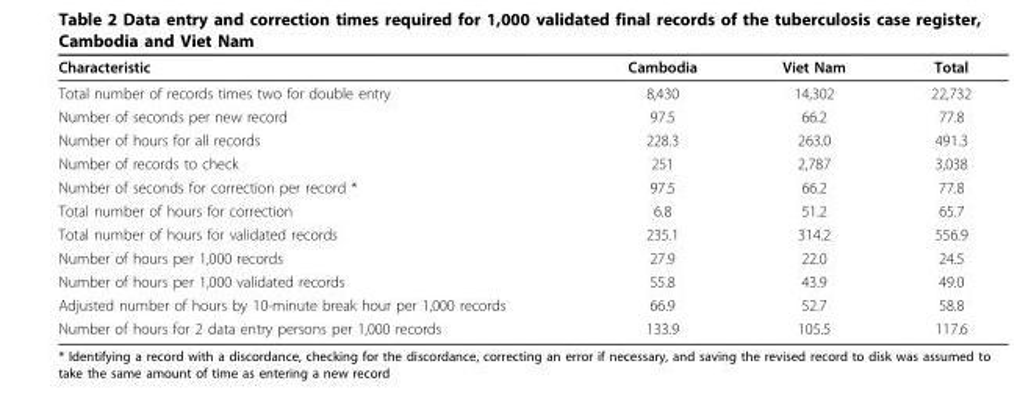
<table><thead><tr><td>Characteristic</td><td>Cambodia</td><td>Viet Nam</td><td>Total</td></tr></thead><tbody><tr><td>Total number of records times two for double entry</td><td>8,430</td><td>14,302</td><td>22,732</td></tr><tr><td>Number of seconds per new record</td><td>97.5</td><td>66.2</td><td>77.8</td></tr><tr><td>Number of hours for all records</td><td>228.3</td><td>263.0</td><td>491.3</td></tr><tr><td>Number of records to check</td><td>251</td><td>2,787</td><td>3,038</td></tr><tr><td>Number of seconds for correction per record *</td><td>97.5</td><td>66.2</td><td>77.8</td></tr><tr><td>Total number of hours for correction</td><td>6.8</td><td>51.2</td><td>65.7</td></tr><tr><td>Total number of hours for validated records</td><td>235.1</td><td>314.2</td><td>556.9</td></tr><tr><td>Number of hours per 1,000 records</td><td>27.9</td><td>22.0</td><td>24.5</td></tr><tr><td>Number of hours per 1,000 validated records</td><td>55.8</td><td>43.9</td><td>49.0</td></tr><tr><td>Adjusted number of hours by 10-minute break hour per 1,000 records</td><td>66.9</td><td>52.7</td><td>58.8</td></tr><tr><td>Number of hours for 2 data entry persons per 1,000 records</td><td>133.9</td><td>105.5</td><td>117.6</td></tr></tbody></table>